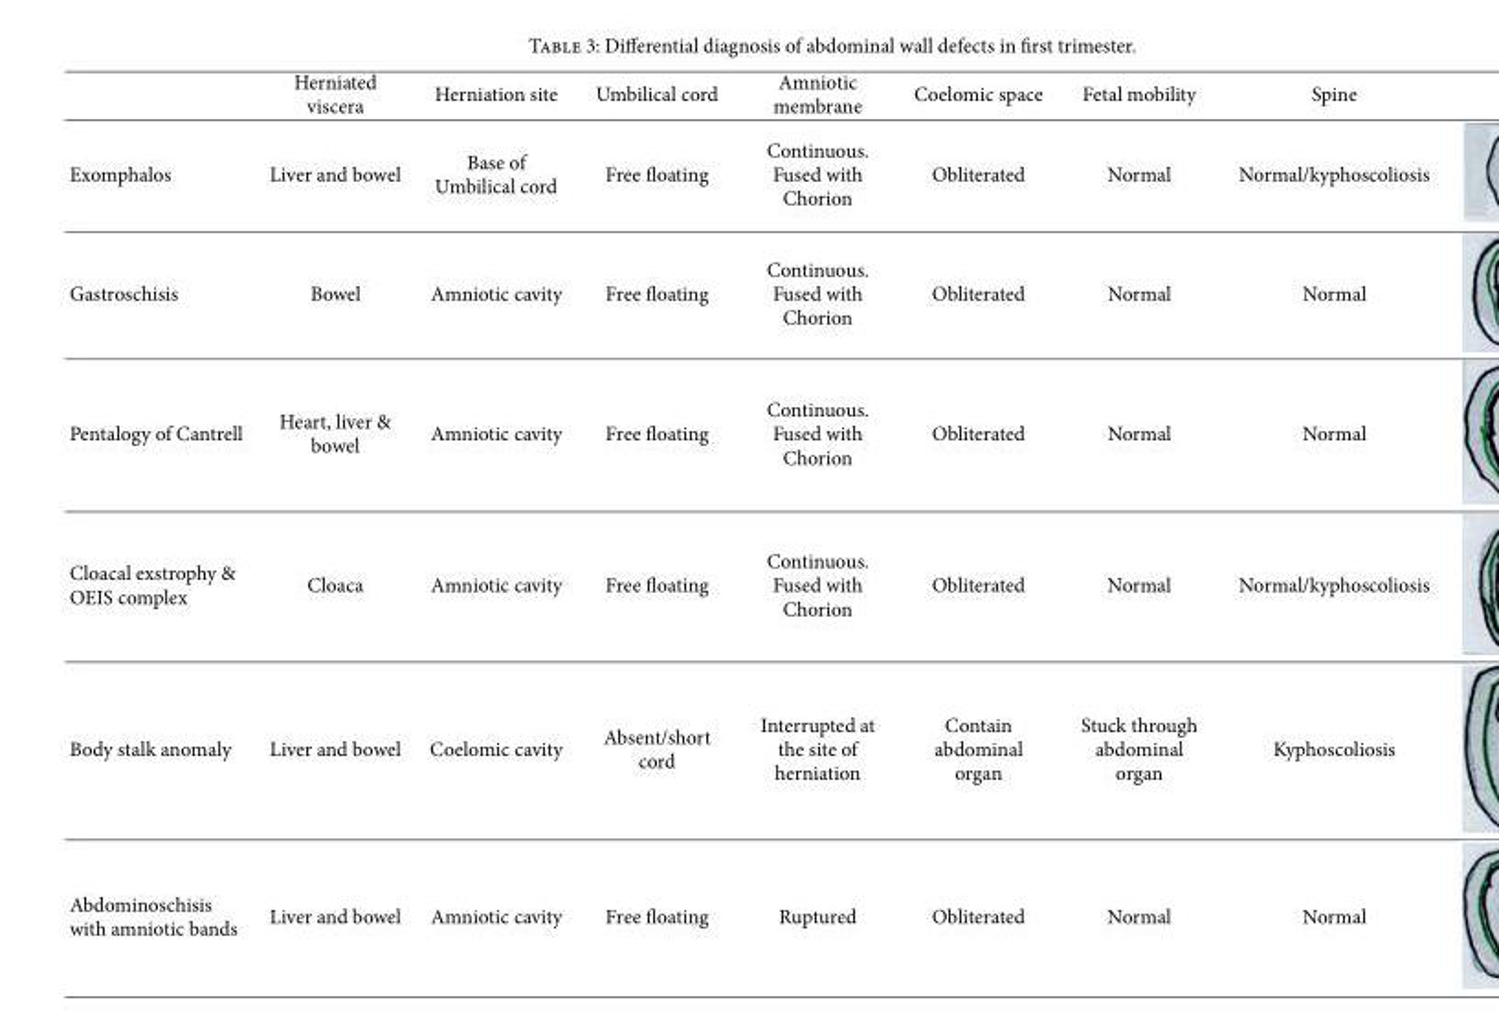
<table><thead><tr><td></td><td>Herniated viscera</td><td>Herniation site</td><td>Umbilical cord</td><td>Amniotic membrane</td><td>Coelomic space</td><td>Fetal mobility</td><td>Spine</td></tr></thead><tbody><tr><td>Exomphalos</td><td>Liver and bowel</td><td>Base of Umbilical cord</td><td>Free floating</td><td>Continuous. Fused with Chorion</td><td>Obliterated</td><td>Normal</td><td>Normal/kyphoscoliosis</td></tr><tr><td>Gastroschisis</td><td>Bowel</td><td>Amniotic cavity</td><td>Free floating</td><td>Continuous. Fused with Chorion</td><td>Obliterated</td><td>Normal</td><td>Normal</td></tr><tr><td>Pentalogy of Cantrell</td><td>Heart, liver &amp; bowel</td><td>Amniotic cavity</td><td>Free floating</td><td>Continuous. Fused with Chorion</td><td>Obliterated</td><td>Normal</td><td>Normal</td></tr><tr><td>Cloacal exstrophy &amp; OEIS complex</td><td>Cloaca</td><td>Amniotic cavity</td><td>Free floating</td><td>Continuous. Fused with Chorion</td><td>Obliterated</td><td>Normal</td><td>Normal/kyphoscoliosis</td></tr><tr><td>Body stalk anomaly</td><td>Liver and bowel</td><td>Coelomic cavity</td><td>Absent/short cord</td><td>Interrupted at the site of herniation</td><td>Contain abdominal organ</td><td>Stuck through abdominal organ</td><td>Kyphoscoliosis</td></tr><tr><td>Abdominoschisis with amniotic bands</td><td>Liver and bowel</td><td>Amniotic cavity</td><td>Free floating</td><td>Ruptured</td><td>Obliterated</td><td>Normal</td><td>Normal</td></tr></tbody></table>